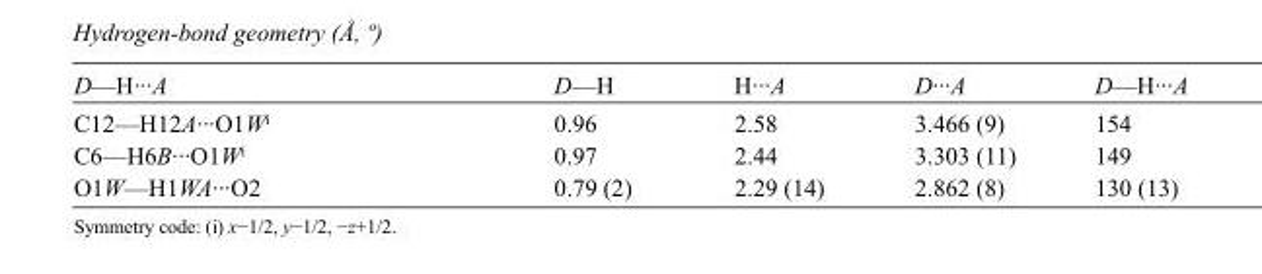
<table><tbody><tr><td>D—H···A</td><td>D—H</td><td>H···A</td><td>D···A</td><td>D—H···A</td></tr><tr><td>C12—H12A···O1W<sup>i</sup></td><td>0.96</td><td>2.58</td><td>3.466 (9)</td><td>154</td></tr><tr><td>C6—H6B···O1W<sup>i</sup></td><td>0.97</td><td>2.44</td><td>3.303 (11)</td><td>149</td></tr><tr><td>O1W—H1WA···O2</td><td>0.79 (2)</td><td>2.29 (14)</td><td>2.862 (8)</td><td>130 (13)</td></tr></tbody></table>